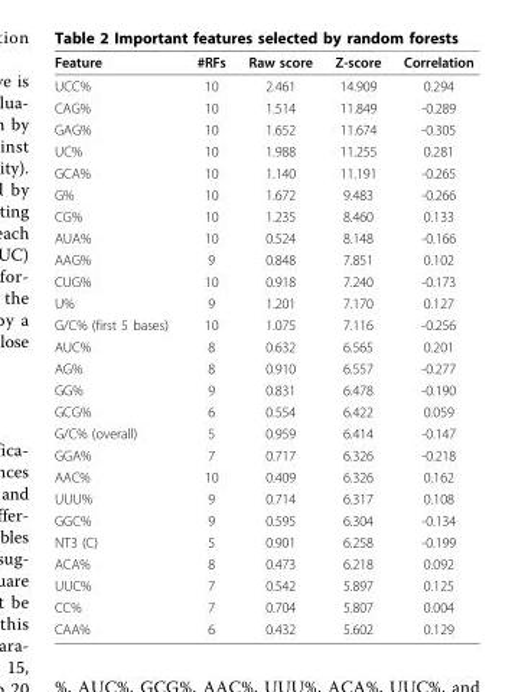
<table><thead><tr><td>Feature</td><td>#RFs</td><td>Raw score</td><td>Z-score</td><td>Correlation</td></tr></thead><tbody><tr><td>UCC%</td><td>10</td><td>2.461</td><td>14.909</td><td>0.294</td></tr><tr><td>CAG%</td><td>10</td><td>1.514</td><td>11.849</td><td>-0.289</td></tr><tr><td>GAG%</td><td>10</td><td>1.652</td><td>11.674</td><td>-0.305</td></tr><tr><td>UC%</td><td>10</td><td>1.988</td><td>11.255</td><td>0.281</td></tr><tr><td>GCA%</td><td>10</td><td>1.140</td><td>11.191</td><td>-0.265</td></tr><tr><td>G%</td><td>10</td><td>1.672</td><td>9.483</td><td>-0.266</td></tr><tr><td>CG%</td><td>10</td><td>1.235</td><td>8.460</td><td>0.133</td></tr><tr><td>AUA%</td><td>10</td><td>0.524</td><td>8.148</td><td>-0.166</td></tr><tr><td>AAG%</td><td>9</td><td>0.848</td><td>7.851</td><td>0.102</td></tr><tr><td>CUG%</td><td>10</td><td>0.918</td><td>7.240</td><td>-0.173</td></tr><tr><td>U%</td><td>9</td><td>1.201</td><td>7.170</td><td>0.127</td></tr><tr><td>G/C% (first 5 bases)</td><td>10</td><td>1.075</td><td>7.116</td><td>-0.256</td></tr><tr><td>AUC%</td><td>8</td><td>0.632</td><td>6.565</td><td>0.201</td></tr><tr><td>AG%</td><td>8</td><td>0.910</td><td>6.557</td><td>-0.277</td></tr><tr><td>GG%</td><td>9</td><td>0.831</td><td>6.478</td><td>-0.190</td></tr><tr><td>GCG%</td><td>6</td><td>0.554</td><td>6.422</td><td>0.059</td></tr><tr><td>G/C% (overall)</td><td>5</td><td>0.959</td><td>6.414</td><td>-0.147</td></tr><tr><td>GGA%</td><td>7</td><td>0.717</td><td>6.326</td><td>-0.218</td></tr><tr><td>AAC%</td><td>10</td><td>0.409</td><td>6.326</td><td>0.162</td></tr><tr><td>UUU%</td><td>9</td><td>0.714</td><td>6.317</td><td>0.108</td></tr><tr><td>GGC%</td><td>9</td><td>0.595</td><td>6.304</td><td>-0.134</td></tr><tr><td>NT3 (C)</td><td>5</td><td>0.901</td><td>6.258</td><td>-0.199</td></tr><tr><td>ACA%</td><td>8</td><td>0.473</td><td>6.218</td><td>0.092</td></tr><tr><td>UUC%</td><td>7</td><td>0.542</td><td>5.897</td><td>0.125</td></tr><tr><td>CC%</td><td>7</td><td>0.704</td><td>5.807</td><td>0.004</td></tr><tr><td>CAA%</td><td>6</td><td>0.432</td><td>5.602</td><td>0.129</td></tr></tbody></table>